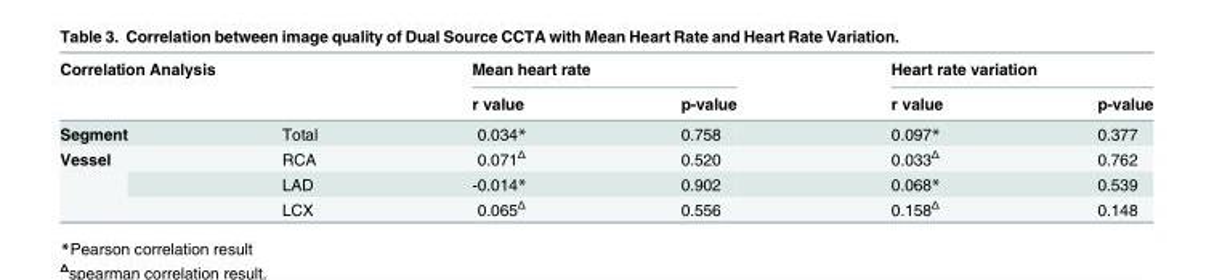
<table><thead><tr><td rowspan="2" colspan="2">Correlation Analysis</td><td colspan="2">Mean heart rate</td><td colspan="2">Heart rate variation</td></tr><tr><td rowspan="2">r value 0.034*</td><td rowspan="2">p-value 0.758</td><td rowspan="2">r value 0.097*</td><td rowspan="2">p-value 0.377</td></tr><tr><td>Segment</td><td>Total</td></tr></thead><tbody><tr><td rowspan="3">Vessel</td><td>RCA</td><td>0.071<sup>Δ</sup></td><td>0.520</td><td>0.033<sup>Δ</sup></td><td>0.762</td></tr><tr><td>LAD</td><td>-0.014*</td><td>0.902</td><td>0.068*</td><td>0.539</td></tr><tr><td>LCX</td><td>0.065<sup>Δ</sup></td><td>0.556</td><td>0.158<sup>Δ</sup></td><td>0.148</td></tr></tbody></table>